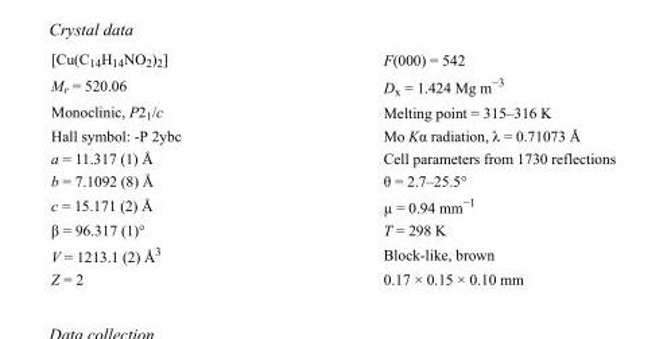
<table><tbody><tr><td>[Cu(C<sub>14</sub>H<sub>14</sub>NO<sub>2</sub>)<sub>2</sub>]</td><td>F(000) = 542</td></tr><tr><td>M<sub>r</sub> = 520.06</td><td>D<sub>x</sub> = 1.424 Mg m<sup>−3</sup></td></tr><tr><td>Monoclinic, P2<sub>1</sub>/c</td><td>Melting point = 315–316 K</td></tr><tr><td>Hall symbol: -P 2ybc</td><td>Mo Kα radiation, λ = 0.71073 Å</td></tr><tr><td>a = 11.317 (1) Å</td><td>Cell parameters from 1730 reflections</td></tr><tr><td>b = 7.1092 (8) Å</td><td>θ = 2.7–25.5°</td></tr><tr><td>c = 15.171 (2) Å</td><td>µ = 0.94 mm<sup>−1</sup></td></tr><tr><td>β = 96.317 (1)°</td><td>T = 298 K</td></tr><tr><td>V = 1213.1 (2) Å<sup>3</sup></td><td>Block-like, brown</td></tr><tr><td>Z = 2</td><td>0.17 × 0.15 × 0.10 mm</td></tr></tbody></table>